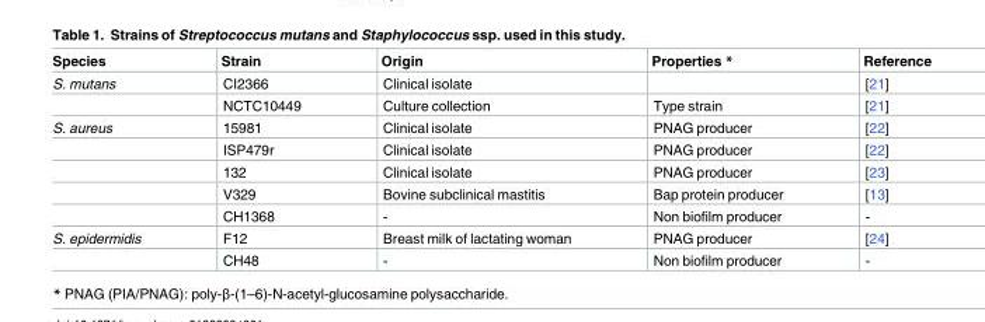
<table><thead><tr><td>Species</td><td>Strain</td><td>Origin</td><td>Properties *</td><td>Reference</td></tr></thead><tbody><tr><td rowspan="2">S. mutans</td><td>CI2366</td><td>Clinical isolate</td><td></td><td>[21]</td></tr><tr><td>NCTC10449</td><td>Culture collection</td><td>Type strain</td><td>[21]</td></tr><tr><td rowspan="5">S. aureus</td><td>15981</td><td>Clinical isolate</td><td>PNAG producer</td><td>[22]</td></tr><tr><td>ISP479r</td><td>Clinical isolate</td><td>PNAG producer</td><td>[22]</td></tr><tr><td>132</td><td>Clinical isolate</td><td>PNAG producer</td><td>[23]</td></tr><tr><td>V329</td><td>Bovine subclinical mastitis</td><td>Bap protein producer</td><td>[13]</td></tr><tr><td>CH1368</td><td>-</td><td>Non biofilm producer</td><td>-</td></tr><tr><td rowspan="2">S. epidermidis</td><td>F12</td><td>Breast milk of lactating woman</td><td>PNAG producer</td><td>[24]</td></tr><tr><td>CH48</td><td>-</td><td>Non biofilm producer</td><td>-</td></tr></tbody></table>